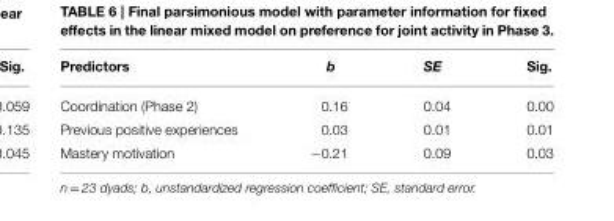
<table><thead><tr><td>Predictors</td><td>b</td><td>SE</td><td>Sig.</td></tr></thead><tbody><tr><td>Coordination (Phase 2)</td><td>0.16</td><td>0.04</td><td>0.00</td></tr><tr><td>Previous positive experiences</td><td>0.03</td><td>0.01</td><td>0.01</td></tr><tr><td>Mastery motivation</td><td>−0.21</td><td>0.09</td><td>0.03</td></tr></tbody></table>